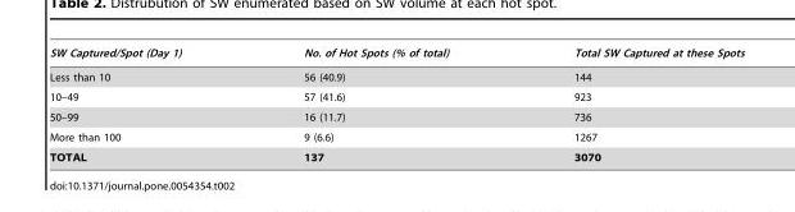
<table><thead><tr><td>SW Captured/Spot (Day 1)</td><td>No. of Hot Spots (% of total)</td><td>Total SW Captured at these Spots</td></tr></thead><tbody><tr><td>Less than 10</td><td>56 (40.9)</td><td>144</td></tr><tr><td>10–49</td><td>57 (41.6)</td><td>923</td></tr><tr><td>50–99</td><td>16 (11.7)</td><td>736</td></tr><tr><td>More than 100</td><td>9 (6.6)</td><td>1267</td></tr><tr><td>TOTAL</td><td>137</td><td>3070</td></tr></tbody></table>